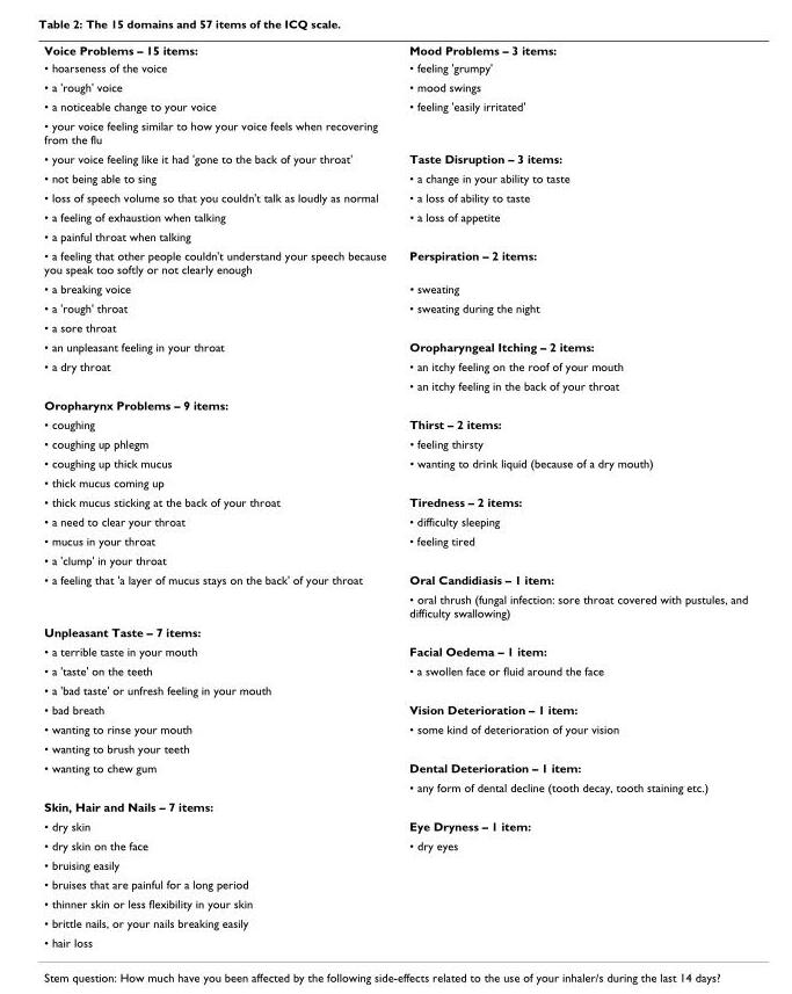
<table><tbody><tr><td>Voice Problems – 15 items:</td><td>Mood Problems – 3 items:</td></tr><tr><td>• hoarseness of the voice</td><td>• feeling &#x27;grumpy&#x27;</td></tr><tr><td>• a &#x27;rough&#x27; voice</td><td>• mood swings</td></tr><tr><td>• a noticeable change to your voice</td><td>• feeling &#x27;easily irritated&#x27;</td></tr><tr><td colspan="2">• your voice feeling similar to how your voice feels when recovering from the flu</td></tr><tr><td>• your voice feeling like it had &#x27;gone to the back of your throat&#x27;</td><td>Taste Disruption – 3 items:</td></tr><tr><td>• not being able to sing</td><td>• a change in your ability to taste</td></tr><tr><td>• loss of speech volume so that you couldn&#x27;t talk as loudly as normal</td><td>• a loss of ability to taste</td></tr><tr><td>• a feeling of exhaustion when talking</td><td>• a loss of appetite</td></tr><tr><td colspan="2">• a painful throat when talking</td></tr><tr><td>• a feeling that other people couldn&#x27;t understand your speech because you speak too softly or not clearly enough</td><td>Perspiration – 2 items:</td></tr><tr><td>• a breaking voice</td><td>• sweating</td></tr><tr><td>• a &#x27;rough&#x27; throat</td><td>• sweating during the night</td></tr><tr><td colspan="2">• a sore throat</td></tr><tr><td>• an unpleasant feeling in your throat</td><td>Oropharyngeal Itching – 2 items:</td></tr><tr><td rowspan="2">• a dry throat</td><td>• an itchy feeling on the roof of your mouth</td></tr><tr><td>• an itchy feeling in the back of your throat</td></tr><tr><td colspan="2">Oropharynx Problems – 9 items:</td></tr><tr><td>• coughing</td><td>Thirst – 2 items:</td></tr><tr><td>• coughing up phlegm</td><td>• feeling thirsty</td></tr><tr><td>• coughing up thick mucus</td><td>• wanting to drink liquid (because of a dry mouth)</td></tr><tr><td colspan="2">• thick mucus coming up</td></tr><tr><td>• thick mucus sticking at the back of your throat</td><td>Tiredness – 2 items:</td></tr><tr><td>• a need to clear your throat</td><td>• difficulty sleeping</td></tr><tr><td>• mucus in your throat</td><td>• feeling tired</td></tr><tr><td colspan="2">• a &#x27;clump&#x27; in your throat</td></tr><tr><td rowspan="2">• a feeling that &#x27;a layer of mucus stays on the back&#x27; of your throat</td><td>Oral Candidiasis – 1 item:</td></tr><tr><td>• oral thrush (fungal infection: sore throat covered with pustules, and difficulty swallowing)</td></tr><tr><td colspan="2">Unpleasant Taste – 7 items:</td></tr><tr><td>• a terrible taste in your mouth</td><td>Facial Oedema – 1 item:</td></tr><tr><td>• a &#x27;taste&#x27; on the teeth</td><td>• a swollen face or fluid around the face</td></tr><tr><td colspan="2">• a &#x27;bad taste&#x27; or unfresh feeling in your mouth</td></tr><tr><td>• bad breath</td><td>Vision Deterioration – 1 item:</td></tr><tr><td>• wanting to rinse your mouth</td><td>• some kind of deterioration of your vision</td></tr><tr><td colspan="2">• wanting to brush your teeth</td></tr><tr><td rowspan="2">• wanting to chew gum</td><td>Dental Deterioration – 1 item:</td></tr><tr><td>• any form of dental decline (tooth decay, tooth staining etc.)</td></tr><tr><td colspan="2">Skin, Hair and Nails – 7 items:</td></tr><tr><td>• dry skin</td><td>Eye Dryness – 1 item:</td></tr><tr><td>• dry skin on the face</td><td>• dry eyes</td></tr><tr><td colspan="2">• bruising easily</td></tr><tr><td colspan="2">• bruises that are painful for a long period</td></tr><tr><td colspan="2">• thinner skin or less flexibility in your skin</td></tr><tr><td colspan="2">• brittle nails, or your nails breaking easily</td></tr><tr><td>• hair loss</td><td></td></tr></tbody></table>